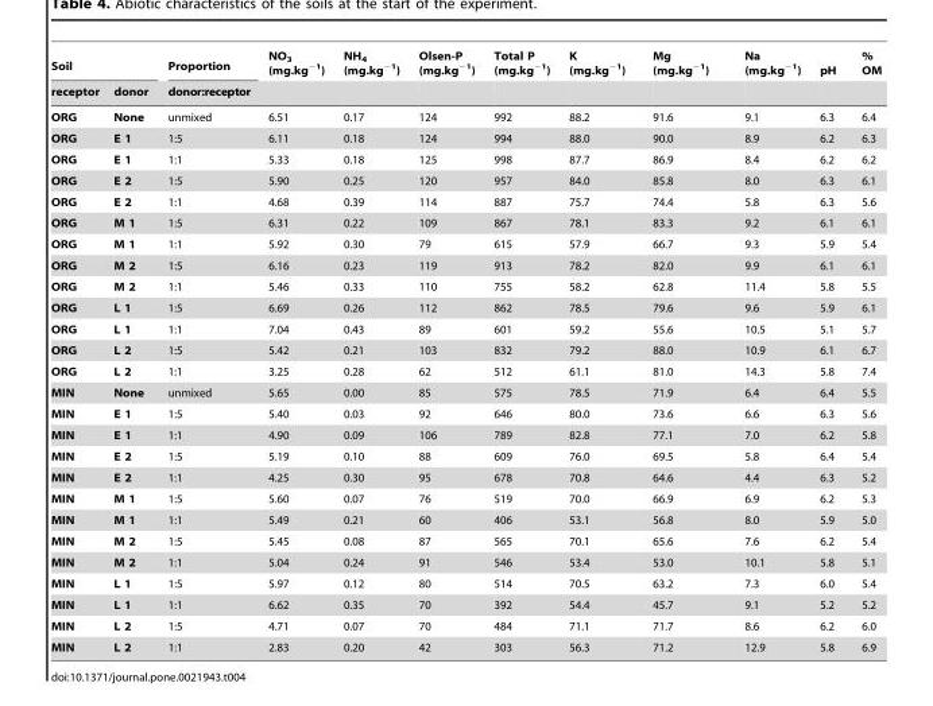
<table><thead><tr><td colspan="2">Soil</td><td rowspan="2">Proportion donor:receptor</td><td rowspan="2">NO<sub>3</sub> (mg.kg<sup>−1</sup>)</td><td rowspan="2">NH<sub>4</sub> (mg.kg<sup>−1</sup>)</td><td rowspan="2">Olsen-P (mg.kg<sup>−1</sup>)</td><td rowspan="2">Total P (mg.kg<sup>−1</sup>)</td><td rowspan="2">K (mg.kg<sup>−1</sup>)</td><td rowspan="2">Mg (mg.kg<sup>−1</sup>)</td><td rowspan="2">Na (mg.kg<sup>−1</sup>)</td><td rowspan="2">pH</td><td rowspan="2">% OM</td></tr><tr><td>receptor</td><td>donor</td></tr></thead><tbody><tr><td>ORG</td><td>None</td><td>unmixed</td><td>6.51</td><td>0.17</td><td>124</td><td>992</td><td>88.2</td><td>91.6</td><td>9.1</td><td>6.3</td><td>6.4</td></tr><tr><td>ORG</td><td>E 1</td><td>1:5</td><td>6.11</td><td>0.18</td><td>124</td><td>994</td><td>88.0</td><td>90.0</td><td>8.9</td><td>6.2</td><td>6.3</td></tr><tr><td>ORG</td><td>E 1</td><td>1:1</td><td>5.33</td><td>0.18</td><td>125</td><td>998</td><td>87.7</td><td>86.9</td><td>8.4</td><td>6.2</td><td>6.2</td></tr><tr><td>ORG</td><td>E 2</td><td>1:5</td><td>5.90</td><td>0.25</td><td>120</td><td>957</td><td>84.0</td><td>85.8</td><td>8.0</td><td>6.3</td><td>6.1</td></tr><tr><td>ORG</td><td>E 2</td><td>1:1</td><td>4.68</td><td>0.39</td><td>114</td><td>887</td><td>75.7</td><td>74.4</td><td>5.8</td><td>6.3</td><td>5.6</td></tr><tr><td>ORG</td><td>M 1</td><td>1:5</td><td>6.31</td><td>0.22</td><td>109</td><td>867</td><td>78.1</td><td>83.3</td><td>9.2</td><td>6.1</td><td>6.1</td></tr><tr><td>ORG</td><td>M 1</td><td>1:1</td><td>5.92</td><td>0.30</td><td>79</td><td>615</td><td>57.9</td><td>66.7</td><td>9.3</td><td>5.9</td><td>5.4</td></tr><tr><td>ORG</td><td>M 2</td><td>1:5</td><td>6.16</td><td>0.23</td><td>119</td><td>913</td><td>78.2</td><td>82.0</td><td>9.9</td><td>6.1</td><td>6.1</td></tr><tr><td>ORG</td><td>M 2</td><td>1:1</td><td>5.46</td><td>0.33</td><td>110</td><td>755</td><td>58.2</td><td>62.8</td><td>11.4</td><td>5.8</td><td>5.5</td></tr><tr><td>ORG</td><td>L 1</td><td>1:5</td><td>6.69</td><td>0.26</td><td>112</td><td>862</td><td>78.5</td><td>79.6</td><td>9.6</td><td>5.9</td><td>6.1</td></tr><tr><td>ORG</td><td>L 1</td><td>1:1</td><td>7.04</td><td>0.43</td><td>89</td><td>601</td><td>59.2</td><td>55.6</td><td>10.5</td><td>5.1</td><td>5.7</td></tr><tr><td>ORG</td><td>L 2</td><td>1:5</td><td>5.42</td><td>0.21</td><td>103</td><td>832</td><td>79.2</td><td>88.0</td><td>10.9</td><td>6.1</td><td>6.7</td></tr><tr><td>ORG</td><td>L 2</td><td>1:1</td><td>3.25</td><td>0.28</td><td>62</td><td>512</td><td>61.1</td><td>81.0</td><td>14.3</td><td>5.8</td><td>7.4</td></tr><tr><td>MIN</td><td>None</td><td>unmixed</td><td>5.65</td><td>0.00</td><td>85</td><td>575</td><td>78.5</td><td>71.9</td><td>6.4</td><td>6.4</td><td>5.5</td></tr><tr><td>MIN</td><td>E 1</td><td>1:5</td><td>5.40</td><td>0.03</td><td>92</td><td>646</td><td>80.0</td><td>73.6</td><td>6.6</td><td>6.3</td><td>5.6</td></tr><tr><td>MIN</td><td>E 1</td><td>1:1</td><td>4.90</td><td>0.09</td><td>106</td><td>789</td><td>82.8</td><td>77.1</td><td>7.0</td><td>6.2</td><td>5.8</td></tr><tr><td>MIN</td><td>E 2</td><td>1:5</td><td>5.19</td><td>0.10</td><td>88</td><td>609</td><td>76.0</td><td>69.5</td><td>5.8</td><td>6.4</td><td>5.4</td></tr><tr><td>MIN</td><td>E 2</td><td>1:1</td><td>4.25</td><td>0.30</td><td>95</td><td>678</td><td>70.8</td><td>64.6</td><td>4.4</td><td>6.3</td><td>5.2</td></tr><tr><td>MIN</td><td>M 1</td><td>1:5</td><td>5.60</td><td>0.07</td><td>76</td><td>519</td><td>70.0</td><td>66.9</td><td>6.9</td><td>6.2</td><td>5.3</td></tr><tr><td>MIN</td><td>M 1</td><td>1:1</td><td>5.49</td><td>0.21</td><td>60</td><td>406</td><td>53.1</td><td>56.8</td><td>8.0</td><td>5.9</td><td>5.0</td></tr><tr><td>MIN</td><td>M 2</td><td>1:5</td><td>5.45</td><td>0.08</td><td>87</td><td>565</td><td>70.1</td><td>65.6</td><td>7.6</td><td>6.2</td><td>5.4</td></tr><tr><td>MIN</td><td>M 2</td><td>1:1</td><td>5.04</td><td>0.24</td><td>91</td><td>546</td><td>53.4</td><td>53.0</td><td>10.1</td><td>5.8</td><td>5.1</td></tr><tr><td>MIN</td><td>L 1</td><td>1:5</td><td>5.97</td><td>0.12</td><td>80</td><td>514</td><td>70.5</td><td>63.2</td><td>7.3</td><td>6.0</td><td>5.4</td></tr><tr><td>MIN</td><td>L 1</td><td>1:1</td><td>6.62</td><td>0.35</td><td>70</td><td>392</td><td>54.4</td><td>45.7</td><td>9.1</td><td>5.2</td><td>5.2</td></tr><tr><td>MIN</td><td>L 2</td><td>1:5</td><td>4.71</td><td>0.07</td><td>70</td><td>484</td><td>71.1</td><td>71.7</td><td>8.6</td><td>6.2</td><td>6.0</td></tr><tr><td>MIN</td><td>L 2</td><td>1:1</td><td>2.83</td><td>0.20</td><td>42</td><td>303</td><td>56.3</td><td>71.2</td><td>12.9</td><td>5.8</td><td>6.9</td></tr></tbody></table>